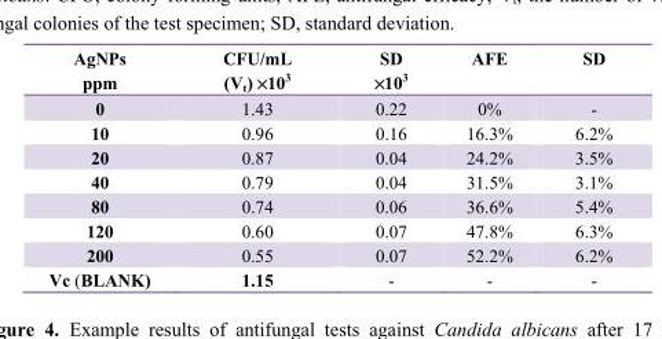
<table><thead><tr><td>AgNPs ppm</td><td>CFU/mL (V<sub>t</sub>) ×10<sup>3</sup></td><td>SD ×10<sup>3</sup></td><td>AFE</td><td>SD</td></tr></thead><tbody><tr><td>0</td><td>1.43</td><td>0.22</td><td>0%</td><td>-</td></tr><tr><td>10</td><td>0.96</td><td>0.16</td><td>16.3%</td><td>6.2%</td></tr><tr><td>20</td><td>0.87</td><td>0.04</td><td>24.2%</td><td>3.5%</td></tr><tr><td>40</td><td>0.79</td><td>0.04</td><td>31.5%</td><td>3.1%</td></tr><tr><td>80</td><td>0.74</td><td>0.06</td><td>36.6%</td><td>5.4%</td></tr><tr><td>120</td><td>0.60</td><td>0.07</td><td>47.8%</td><td>6.3%</td></tr><tr><td>200</td><td>0.55</td><td>0.07</td><td>52.2%</td><td>6.2%</td></tr><tr><td>Vc (BLANK)</td><td>1.15</td><td>-</td><td>-</td><td>-</td></tr></tbody></table>